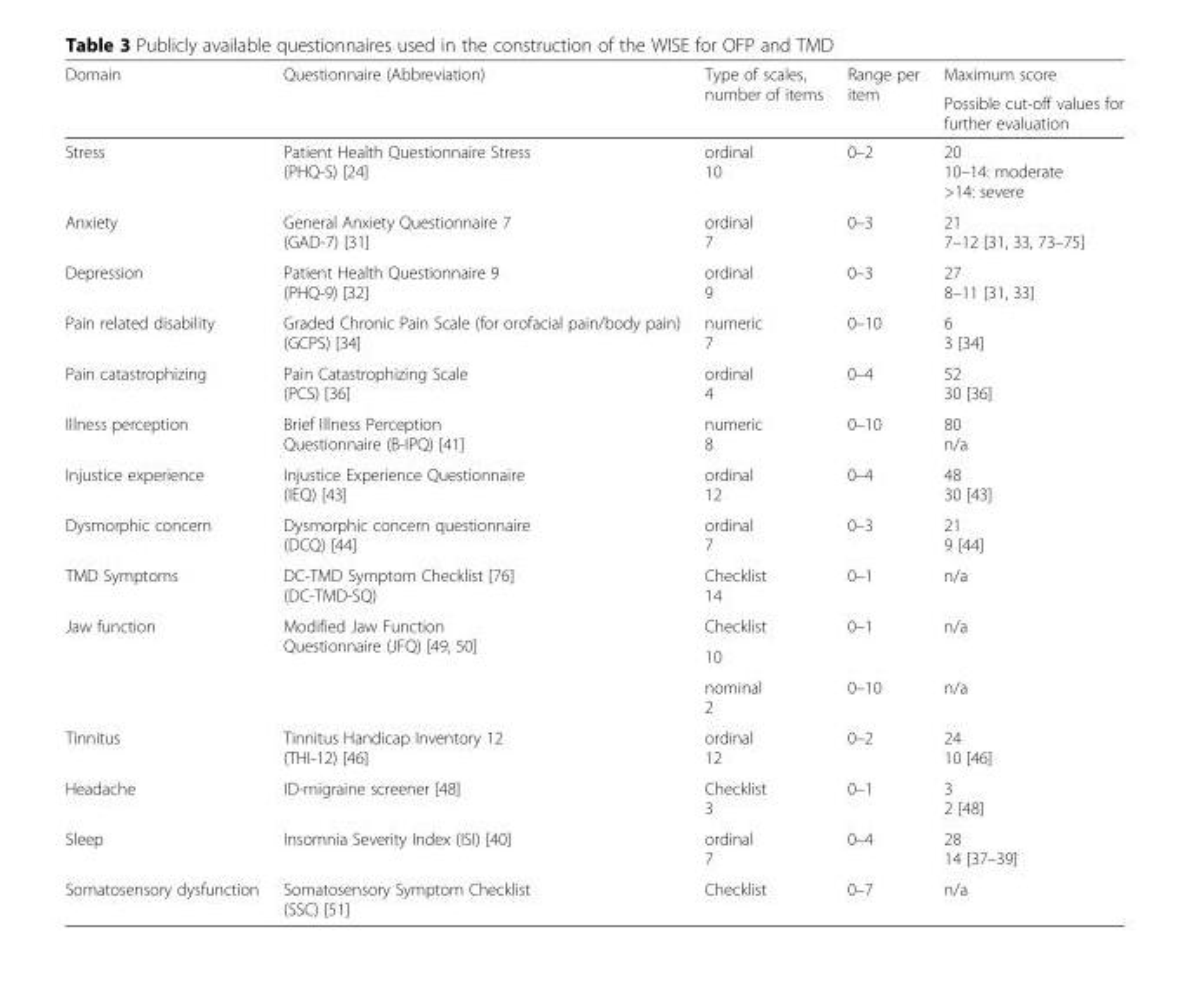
<table><thead><tr><td rowspan="2">Domain</td><td rowspan="2">Questionnaire (Abbreviation)</td><td rowspan="2">Type of scales, number of items</td><td rowspan="2">Range per item</td><td rowspan="2">Maximum score Possible cut-off values for further evaluation</td></tr><tr></tr></thead><tbody><tr><td>Stress</td><td>Patient Health Questionnaire Stress (PHQ-S) [24]</td><td>ordinal 10</td><td>0–2</td><td>20 10–14: moderate &gt;14: severe</td></tr><tr><td>Anxiety</td><td>General Anxiety Questionnaire 7 (GAD-7) [31]</td><td>ordinal 7</td><td>0–3</td><td>21 7–12 [31, 33, 73–75]</td></tr><tr><td>Depression</td><td>Patient Health Questionnaire 9 (PHQ-9) [32]</td><td>ordinal 9</td><td>0–3</td><td>27 8–11 [31, 33]</td></tr><tr><td>Pain related disability</td><td>Graded Chronic Pain Scale (for orofacial pain/body pain) (GCPS) [34]</td><td>numeric 7</td><td>0–10</td><td>6 3 [34]</td></tr><tr><td>Pain catastrophizing</td><td>Pain Catastrophizing Scale (PCS) [36]</td><td>ordinal 4</td><td>0–4</td><td>52 30 [36]</td></tr><tr><td>Illness perception</td><td>Brief Illness Perception Questionnaire (B-IPQ) [41]</td><td>numeric 8</td><td>0–10</td><td>80 n/a</td></tr><tr><td>Injustice experience</td><td>Injustice Experience Questionnaire (IEQ) [43]</td><td>ordinal 12</td><td>0–4</td><td>48 30 [43]</td></tr><tr><td>Dysmorphic concern</td><td>Dysmorphic concern questionnaire (DCQ) [44]</td><td>ordinal 7</td><td>0–3</td><td>21 9 [44]</td></tr><tr><td>TMD Symptoms</td><td>DC-TMD Symptom Checklist [76] (DC-TMD-SQ)</td><td>Checklist 14</td><td>0–1</td><td>n/a</td></tr><tr><td rowspan="3">Jaw function</td><td rowspan="3">Modified Jaw Function Questionnaire (JFQ) [49, 50]</td><td>Checklist</td><td>0–1</td><td>n/a</td></tr><tr><td>10</td><td></td><td></td></tr><tr><td>nominal 2</td><td>0–10</td><td>n/a</td></tr><tr><td>Tinnitus</td><td>Tinnitus Handicap Inventory 12 (THI-12) [46]</td><td>ordinal 12</td><td>0–2</td><td>24 10 [46]</td></tr><tr><td>Headache</td><td>ID-migraine screener [48]</td><td>Checklist 3</td><td>0–1</td><td>3 2 [48]</td></tr><tr><td>Sleep</td><td>Insomnia Severity Index (ISI) [40]</td><td>ordinal 7</td><td>0–4</td><td>28 14 [37–39]</td></tr><tr><td>Somatosensory dysfunction</td><td>Somatosensory Symptom Checklist (SSC) [51]</td><td>Checklist</td><td>0–7</td><td>n/a</td></tr></tbody></table>